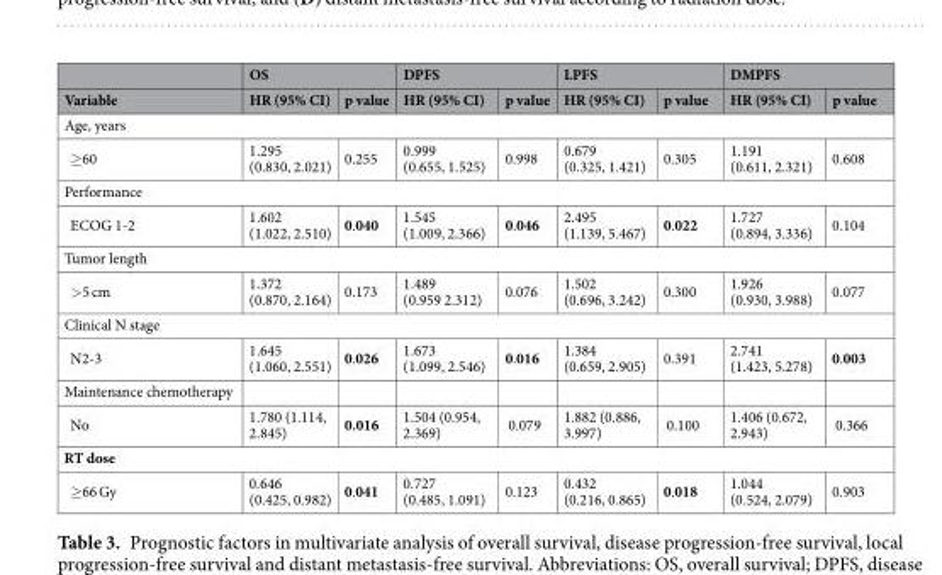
<table><thead><tr><td rowspan="2">Variable</td><td colspan="2">OS</td><td colspan="2">DPFS</td><td colspan="2">LPFS</td><td colspan="2">DMPFS</td></tr><tr><td>HR (95% CI)</td><td>p value</td><td>HR (95% CI)</td><td>p value</td><td>HR (95% CI)</td><td>p value</td><td>HR (95% CI)</td><td>p value</td></tr></thead><tbody><tr><td colspan="9">Age, years</td></tr><tr><td>≥60</td><td>1.295 (0.830, 2.021)</td><td>0.255</td><td>0.999 (0.655, 1.525)</td><td>0.998</td><td>0.679 (0.325, 1.421)</td><td>0.305</td><td>1.191 (0.611, 2.321)</td><td>0.608</td></tr><tr><td colspan="9">Performance</td></tr><tr><td>ECOG 1-2</td><td>1.602 (1.022, 2.510)</td><td>0.040</td><td>1.545 (1.009, 2.366)</td><td>0.046</td><td>2.495 (1.139, 5.467)</td><td>0.022</td><td>1.727 (0.894, 3.336)</td><td>0.104</td></tr><tr><td colspan="9">Tumor length</td></tr><tr><td>&gt;5 cm</td><td>1.372 (0.870, 2.164)</td><td>0.173</td><td>1.489 (0.959 2.312)</td><td>0.076</td><td>1.502 (0.696, 3.242)</td><td>0.300</td><td>1.926 (0.930, 3.988)</td><td>0.077</td></tr><tr><td colspan="9">Clinical N stage</td></tr><tr><td>N2-3</td><td>1.645 (1.060, 2.551)</td><td>0.026</td><td>1.673 (1.099, 2.546)</td><td>0.016</td><td>1.384 (0.659, 2.905)</td><td>0.391</td><td>2.741 (1.423, 5.278)</td><td>0.003</td></tr><tr><td colspan="9">Maintenance chemotherapy</td></tr><tr><td>No</td><td>1.780 (1.114, 2.845)</td><td>0.016</td><td>1.504 (0.954, 2.369)</td><td>0.079</td><td>1.882 (0.886, 3.997)</td><td>0.100</td><td>1.406 (0.672, 2.943)</td><td>0.366</td></tr><tr><td colspan="9">RT dose</td></tr><tr><td>≥66 Gy</td><td>0.646 (0.425, 0.982)</td><td>0.041</td><td>0.727 (0.485, 1.091)</td><td>0.123</td><td>0.432 (0.216, 0.865)</td><td>0.018</td><td>1.044 (0.524, 2.079)</td><td>0.903</td></tr></tbody></table>